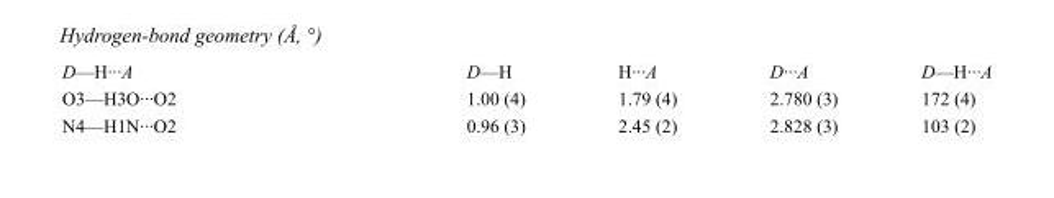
<table><tbody><tr><td>D—H···A</td><td>D—H</td><td>H···A</td><td>D···A</td><td>D—H···A</td></tr><tr><td>O3—H3O···O2</td><td>1.00 (4)</td><td>1.79 (4)</td><td>2.780 (3)</td><td>172 (4)</td></tr><tr><td>N4—H1N···O2</td><td>0.96 (3)</td><td>2.45 (2)</td><td>2.828 (3)</td><td>103 (2)</td></tr></tbody></table>